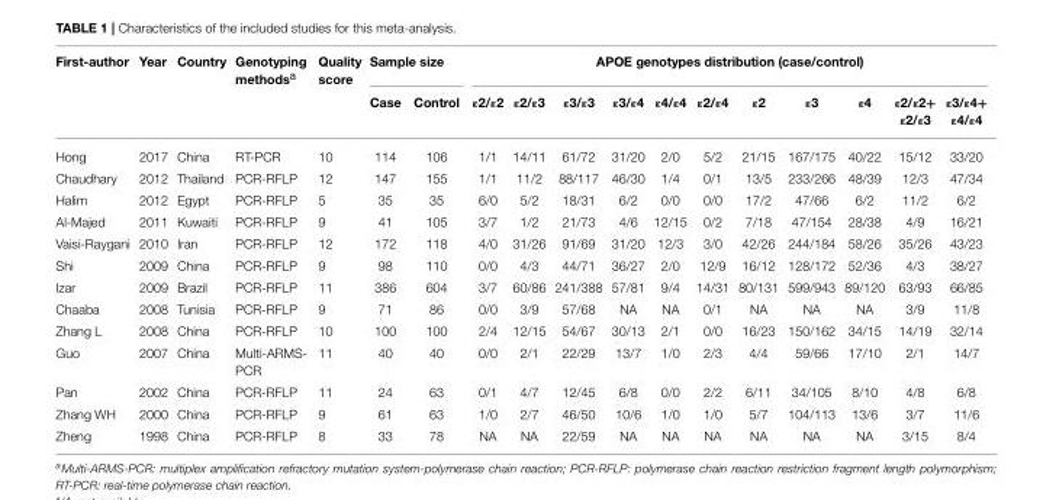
<table><thead><tr><td rowspan="2">First-author</td><td rowspan="2">Year</td><td rowspan="2">Country</td><td rowspan="2">Genotyping methods<sup>a</sup></td><td rowspan="2">Quality score</td><td colspan="2">Sample size</td><td colspan="11">APOE genotypes distribution (case/control)</td></tr><tr><td>Case</td><td>Control</td><td>ε2/ε2</td><td>ε2/ε3</td><td>ε3/ε3</td><td>ε3/ε4</td><td>ε4/ε4</td><td>ε2/ε4</td><td>ε2</td><td>ε3</td><td>ε4</td><td>ε2/ε2+ ε2/ε3</td><td>ε3/ε4+ ε4/ε4</td></tr></thead><tbody><tr><td>Hong</td><td>2017</td><td>China</td><td>RT-PCR</td><td>10</td><td>114</td><td>106</td><td>1/1</td><td>14/11</td><td>61/72</td><td>31/20</td><td>2/0</td><td>5/2</td><td>21/15</td><td>167/175</td><td>40/22</td><td>15/12</td><td>33/20</td></tr><tr><td>Chaudhary</td><td>2012</td><td>Thailand</td><td>PCR-RFLP</td><td>12</td><td>147</td><td>155</td><td>1/1</td><td>11/2</td><td>88/117</td><td>46/30</td><td>1/4</td><td>0/1</td><td>13/5</td><td>233/266</td><td>48/39</td><td>12/3</td><td>47/34</td></tr><tr><td>Halim</td><td>2012</td><td>Egypt</td><td>PCR-RFLP</td><td>5</td><td>35</td><td>35</td><td>6/0</td><td>5/2</td><td>18/31</td><td>6/2</td><td>0/0</td><td>0/0</td><td>17/2</td><td>47/66</td><td>6/2</td><td>11/2</td><td>6/2</td></tr><tr><td>Al-Majed</td><td>2011</td><td>Kuwaiti</td><td>PCR-RFLP</td><td>9</td><td>41</td><td>105</td><td>3/7</td><td>1/2</td><td>21/73</td><td>4/6</td><td>12/15</td><td>0/2</td><td>7/18</td><td>47/154</td><td>28/38</td><td>4/9</td><td>16/21</td></tr><tr><td>Vaisi-Raygani</td><td>2010</td><td>Iran</td><td>PCR-RFLP</td><td>12</td><td>172</td><td>118</td><td>4/0</td><td>31/26</td><td>91/69</td><td>31/20</td><td>12/3</td><td>3/0</td><td>42/26</td><td>244/184</td><td>58/26</td><td>35/26</td><td>43/23</td></tr><tr><td>Shi</td><td>2009</td><td>China</td><td>PCR-RFLP</td><td>9</td><td>98</td><td>110</td><td>0/0</td><td>4/3</td><td>44/71</td><td>36/27</td><td>2/0</td><td>12/9</td><td>16/12</td><td>128/172</td><td>52/36</td><td>4/3</td><td>38/27</td></tr><tr><td>Izar</td><td>2009</td><td>Brazil</td><td>PCR-RFLP</td><td>11</td><td>386</td><td>604</td><td>3/7</td><td>60/86</td><td>241/388</td><td>57/81</td><td>9/4</td><td>14/31</td><td>80/131</td><td>599/943</td><td>89/120</td><td>63/93</td><td>66/85</td></tr><tr><td>Chaaba</td><td>2008</td><td>Tunisia</td><td>PCR-RFLP</td><td>9</td><td>71</td><td>86</td><td>0/0</td><td>3/9</td><td>57/68</td><td>NA</td><td>NA</td><td>0/1</td><td>NA</td><td>NA</td><td>NA</td><td>3/9</td><td>11/8</td></tr><tr><td>Zhang L</td><td>2008</td><td>China</td><td>PCR-RFLP</td><td>10</td><td>100</td><td>100</td><td>2/4</td><td>12/15</td><td>54/67</td><td>30/13</td><td>2/1</td><td>0/0</td><td>16/23</td><td>150/162</td><td>34/15</td><td>14/19</td><td>32/14</td></tr><tr><td>Guo</td><td>2007</td><td>China</td><td>Multi-ARMS- PCR</td><td>11</td><td>40</td><td>40</td><td>0/0</td><td>2/1</td><td>22/29</td><td>13/7</td><td>1/0</td><td>2/3</td><td>4/4</td><td>59/66</td><td>17/10</td><td>2/1</td><td>14/7</td></tr><tr><td>Pan</td><td>2002</td><td>China</td><td>PCR-RFLP</td><td>11</td><td>24</td><td>63</td><td>0/1</td><td>4/7</td><td>12/45</td><td>6/8</td><td>0/0</td><td>2/2</td><td>6/11</td><td>34/105</td><td>8/10</td><td>4/8</td><td>6/8</td></tr><tr><td>Zhang WH</td><td>2000</td><td>China</td><td>PCR-RFLP</td><td>9</td><td>61</td><td>63</td><td>1/0</td><td>2/7</td><td>46/50</td><td>10/6</td><td>1/0</td><td>1/0</td><td>5/7</td><td>104/113</td><td>13/6</td><td>3/7</td><td>11/6</td></tr><tr><td>Zheng</td><td>1998</td><td>China</td><td>PCR-RFLP</td><td>8</td><td>33</td><td>78</td><td>NA</td><td>NA</td><td>22/59</td><td>NA</td><td>NA</td><td>NA</td><td>NA</td><td>NA</td><td>NA</td><td>3/15</td><td>8/4</td></tr></tbody></table>